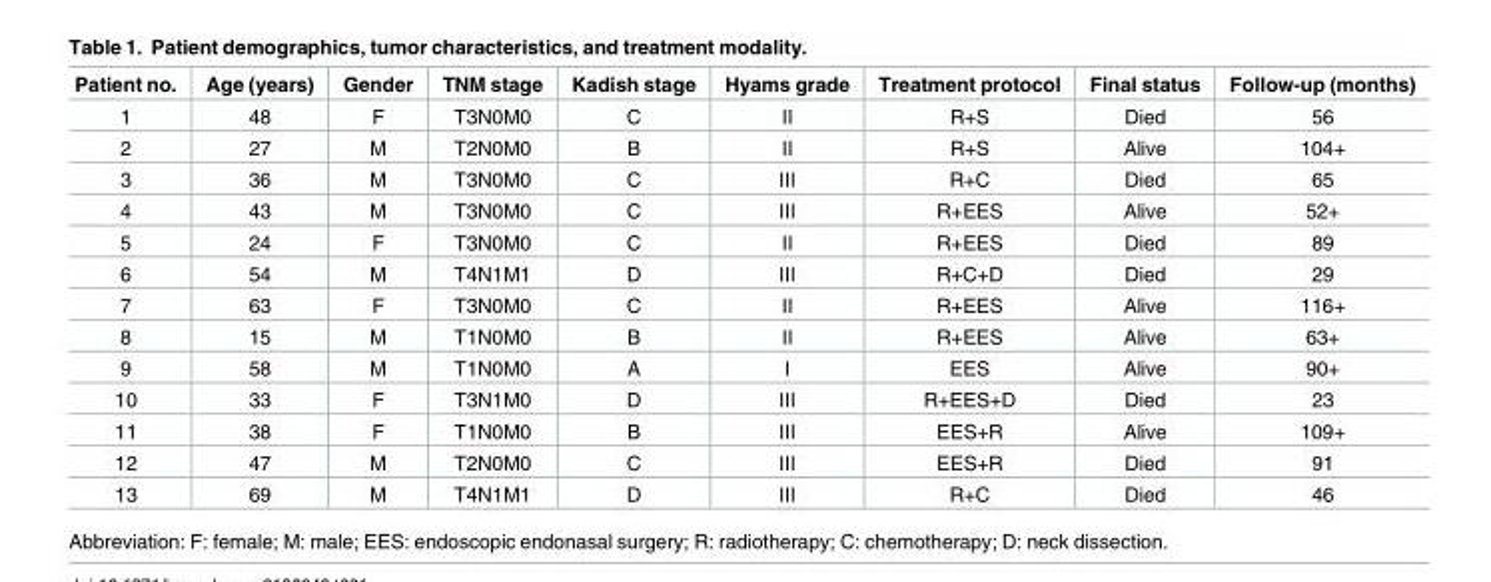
<table><thead><tr><td>Patient no.</td><td>Age (years)</td><td>Gender</td><td>TNM stage</td><td>Kadish stage</td><td>Hyams grade</td><td>Treatment protocol</td><td>Final status</td><td>Follow-up (months)</td></tr></thead><tbody><tr><td>1</td><td>48</td><td>F</td><td>T3N0M0</td><td>C</td><td>Ⅱ</td><td>R+S</td><td>Died</td><td>56</td></tr><tr><td>2</td><td>27</td><td>M</td><td>T2N0M0</td><td>B</td><td>Ⅱ</td><td>R+S</td><td>Alive</td><td>104+</td></tr><tr><td>3</td><td>36</td><td>M</td><td>T3N0M0</td><td>C</td><td>Ⅲ</td><td>R+C</td><td>Died</td><td>65</td></tr><tr><td>4</td><td>43</td><td>M</td><td>T3N0M0</td><td>C</td><td>Ⅲ</td><td>R+EES</td><td>Alive</td><td>52+</td></tr><tr><td>5</td><td>24</td><td>F</td><td>T3N0M0</td><td>C</td><td>Ⅱ</td><td>R+EES</td><td>Died</td><td>89</td></tr><tr><td>6</td><td>54</td><td>M</td><td>T4N1M1</td><td>D</td><td>Ⅲ</td><td>R+C+D</td><td>Died</td><td>29</td></tr><tr><td>7</td><td>63</td><td>F</td><td>T3N0M0</td><td>C</td><td>Ⅱ</td><td>R+EES</td><td>Alive</td><td>116+</td></tr><tr><td>8</td><td>15</td><td>M</td><td>T1N0M0</td><td>B</td><td>Ⅱ</td><td>R+EES</td><td>Alive</td><td>63+</td></tr><tr><td>9</td><td>58</td><td>M</td><td>T1N0M0</td><td>A</td><td>Ⅰ</td><td>EES</td><td>Alive</td><td>90+</td></tr><tr><td>10</td><td>33</td><td>F</td><td>T3N1M0</td><td>D</td><td>Ⅲ</td><td>R+EES+D</td><td>Died</td><td>23</td></tr><tr><td>11</td><td>38</td><td>F</td><td>T1N0M0</td><td>B</td><td>Ⅲ</td><td>EES+R</td><td>Alive</td><td>109+</td></tr><tr><td>12</td><td>47</td><td>M</td><td>T2N0M0</td><td>C</td><td>Ⅲ</td><td>EES+R</td><td>Died</td><td>91</td></tr><tr><td>13</td><td>69</td><td>M</td><td>T4N1M1</td><td>D</td><td>Ⅲ</td><td>R+C</td><td>Died</td><td>46</td></tr></tbody></table>